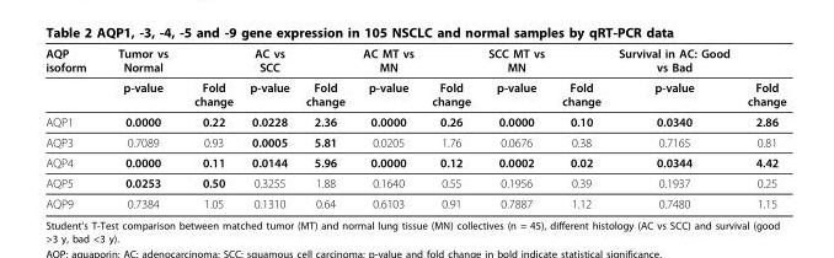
<table><thead><tr><td>AQP isoform</td><td>Tumor vs Normal</td><td></td><td>AC vs SCC</td><td></td><td>AC MT vs MN</td><td></td><td>SCC MT vs MN</td><td></td><td>Survival in AC: Good vs Bad</td><td></td></tr></thead><tbody><tr><td></td><td>p-value</td><td>Fold change</td><td>p-value</td><td>Fold change</td><td>p-value</td><td>Fold change</td><td>p-value</td><td>Fold change</td><td>p-value</td><td>Fold change</td></tr><tr><td>AQP1</td><td>0.0000</td><td>0.22</td><td>0.0228</td><td>2.36</td><td>0.0000</td><td>0.26</td><td>0.0000</td><td>0.10</td><td>0.0340</td><td>2.86</td></tr><tr><td>AQP3</td><td>0.7089</td><td>0.93</td><td>0.0005</td><td>5.81</td><td>0.0205</td><td>1.76</td><td>0.0676</td><td>0.38</td><td>0.7165</td><td>0.81</td></tr><tr><td>AQP4</td><td>0.0000</td><td>0.11</td><td>0.0144</td><td>5.96</td><td>0.0000</td><td>0.12</td><td>0.0002</td><td>0.02</td><td>0.0344</td><td>4.42</td></tr><tr><td>AQP5</td><td>0.0253</td><td>0.50</td><td>0.3255</td><td>1.88</td><td>0.1640</td><td>0.55</td><td>0.1956</td><td>0.39</td><td>0.1937</td><td>0.25</td></tr><tr><td>AQP9</td><td>0.7384</td><td>1.05</td><td>0.1310</td><td>0.64</td><td>0.6103</td><td>0.91</td><td>0.7887</td><td>1.12</td><td>0.7480</td><td>1.15</td></tr></tbody></table>